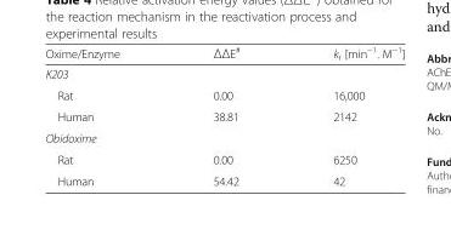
<table><thead><tr><td>Oxime/Enzyme</td><td>ΔΔE<sup>#</sup></td><td>k<sub>r</sub> [min<sup>−1</sup>. M<sup>−1</sup>]</td></tr></thead><tbody><tr><td colspan="3">K203</td></tr><tr><td>Rat</td><td>0.00</td><td>16,000</td></tr><tr><td>Human</td><td>38.81</td><td>2142</td></tr><tr><td colspan="3">Obidoxime</td></tr><tr><td>Rat</td><td>0.00</td><td>6250</td></tr><tr><td>Human</td><td>54.42</td><td>42</td></tr></tbody></table>